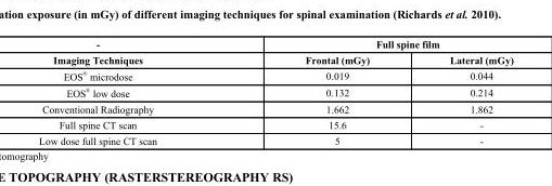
<table><thead><tr><td rowspan="2">- Imaging Techniques</td><td colspan="2">Full spine film</td></tr><tr><td>Frontal (mGy)</td><td>Lateral (mGy)</td></tr></thead><tbody><tr><td>EOS <sup>®</sup> microdose</td><td>0.019</td><td>0.044</td></tr><tr><td>EOS <sup>®</sup> low dose</td><td>0.132</td><td>0.214</td></tr><tr><td>Conventional Radiography</td><td>1.662</td><td>1.862</td></tr><tr><td>Full spine CT scan</td><td>15.6</td><td>-</td></tr><tr><td>Low dose full spine CT scan</td><td>5</td><td>-</td></tr></tbody></table>